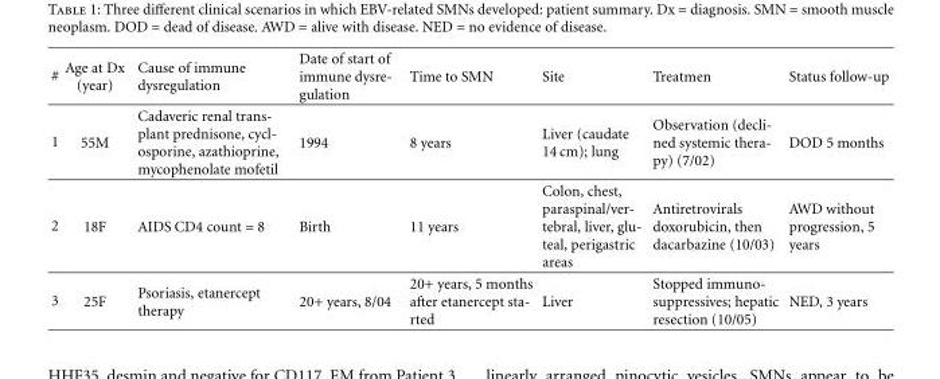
<table><thead><tr><td>#</td><td>Age at Dx (year)</td><td>Cause of immune dysregulation</td><td>Date of start of immune dysre- gulation</td><td>Time to SMN</td><td>Site</td><td>Treatmen</td><td>Status follow-up</td></tr></thead><tbody><tr><td>1</td><td>55M</td><td>Cadaveric renal trans- plant prednisone, cycl- osporine, azathioprine, mycophenolate mofetil</td><td>1994</td><td>8 years</td><td>Liver (caudate 14 cm); lung</td><td>Observation (decli- ned systemic thera- py) (7/02)</td><td>DOD 5 months</td></tr><tr><td>2</td><td>18F</td><td>AIDS CD4 count = 8</td><td>Birth</td><td>11 years</td><td>Colon, chest, paraspinal/ver- tebral, liver, glu- teal, perigastric areas</td><td>Antiretrovirals doxorubicin, then dacarbazine (10/03)</td><td>AWD without progression, 5 years</td></tr><tr><td>3</td><td>25F</td><td>Psoriasis, etanercept therapy</td><td>20+ years, 8/04</td><td>20+ years, 5 months after etanercept sta- rted</td><td>Liver</td><td>Stopped immuno- suppressives; hepatic resection (10/05)</td><td>NED, 3 years</td></tr></tbody></table>